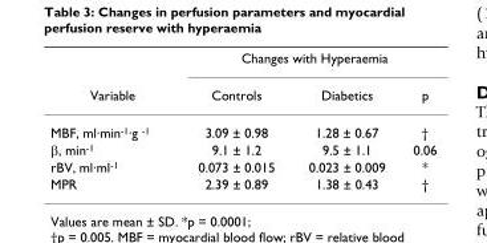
<table><thead><tr><td rowspan="2">Variable</td><td colspan="3">Changes with Hyperaemia</td></tr><tr><td>Controls</td><td>Diabetics</td><td>p</td></tr></thead><tbody><tr><td>MBF, ml·min<sup>-1</sup>·g <sup>-1</sup></td><td>3.09 ± 0.98</td><td>1.28 ± 0.67</td><td>†</td></tr><tr><td>β, min<sup>-1</sup></td><td>9.1 ± 1.2</td><td>9.5 ± 1.1</td><td>0.06</td></tr><tr><td>rBV, ml·ml<sup>-1</sup></td><td>0.073 ± 0.015</td><td>0.023 ± 0.009</td><td>*</td></tr><tr><td>MPR</td><td>2.39 ± 0.89</td><td>1.38 ± 0.43</td><td>†</td></tr></tbody></table>